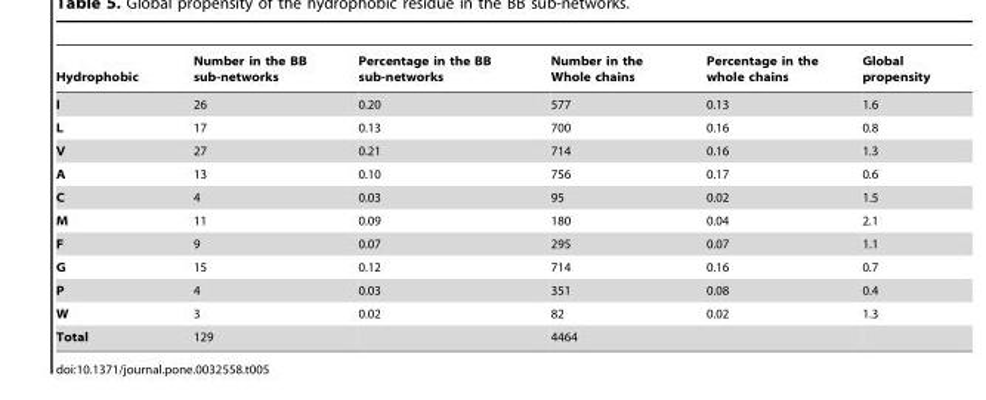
<table><thead><tr><td>Hydrophobic</td><td>Number in the BB sub-networks</td><td>Percentage in the BB sub-networks</td><td>Number in the Whole chains</td><td>Percentage in the whole chains</td><td>Global propensity</td></tr></thead><tbody><tr><td>I</td><td>26</td><td>0.20</td><td>577</td><td>0.13</td><td>1.6</td></tr><tr><td>L</td><td>17</td><td>0.13</td><td>700</td><td>0.16</td><td>0.8</td></tr><tr><td>V</td><td>27</td><td>0.21</td><td>714</td><td>0.16</td><td>1.3</td></tr><tr><td>A</td><td>13</td><td>0.10</td><td>756</td><td>0.17</td><td>0.6</td></tr><tr><td>C</td><td>4</td><td>0.03</td><td>95</td><td>0.02</td><td>1.5</td></tr><tr><td>M</td><td>11</td><td>0.09</td><td>180</td><td>0.04</td><td>2.1</td></tr><tr><td>F</td><td>9</td><td>0.07</td><td>295</td><td>0.07</td><td>1.1</td></tr><tr><td>G</td><td>15</td><td>0.12</td><td>714</td><td>0.16</td><td>0.7</td></tr><tr><td>P</td><td>4</td><td>0.03</td><td>351</td><td>0.08</td><td>0.4</td></tr><tr><td>W</td><td>3</td><td>0.02</td><td>82</td><td>0.02</td><td>1.3</td></tr><tr><td>Total</td><td>129</td><td></td><td>4464</td><td></td><td></td></tr></tbody></table>